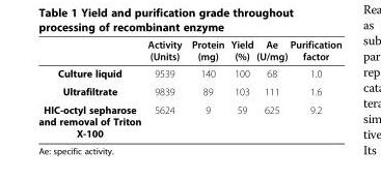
<table><thead><tr><td></td><td>Activity (Units)</td><td>Protein (mg)</td><td>Yield (%)</td><td>Ae (U/mg)</td><td>Purification factor</td></tr></thead><tbody><tr><td>Culture liquid</td><td>9539</td><td>140</td><td>100</td><td>68</td><td>1.0</td></tr><tr><td>Ultrafiltrate</td><td>9839</td><td>89</td><td>103</td><td>111</td><td>1.6</td></tr><tr><td>HIC-octyl sepharose and removal of Triton X-100</td><td>5624</td><td>9</td><td>59</td><td>625</td><td>9.2</td></tr></tbody></table>